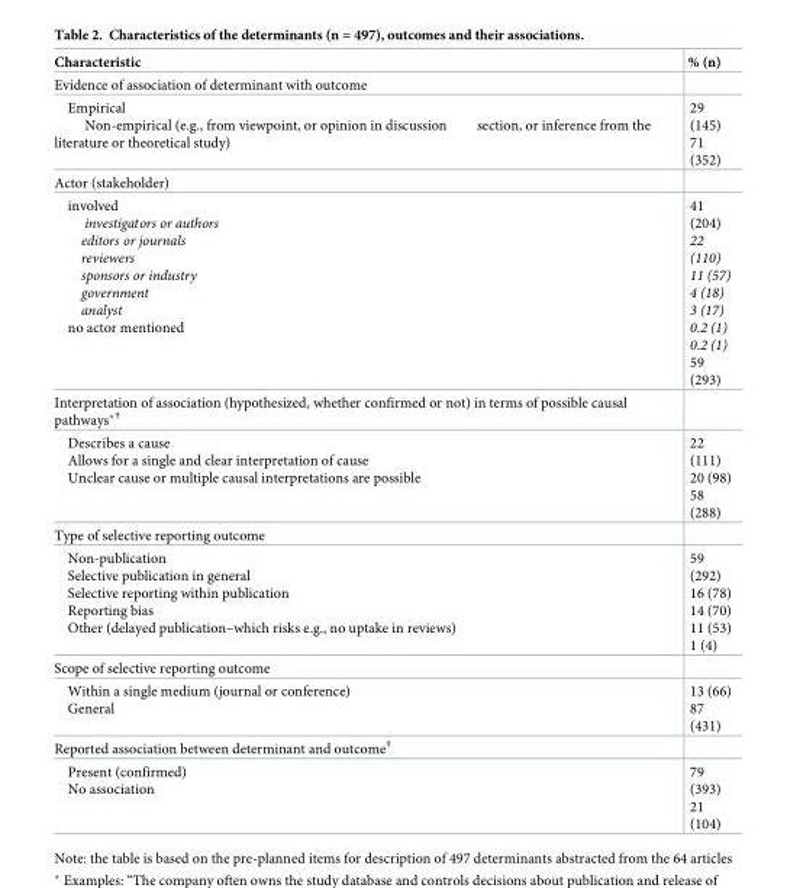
<table><thead><tr><td>Characteristic</td><td>% (n)</td></tr></thead><tbody><tr><td colspan="2">Evidence of association of determinant with outcome</td></tr><tr><td>Empirical Non-empirical (e.g., from viewpoint, or opinion in discussion section, or inference from the literature or theoretical study)</td><td>29 (145) 71 (352)</td></tr><tr><td colspan="2">Actor (stakeholder)</td></tr><tr><td>involved investigators or authors editors or journals reviewers sponsors or industry government analyst no actor mentioned</td><td>41 (204) 22 (110) 11 (57) 4 (18) 3 (17) 0.2 (1) 0.2 (1) 59 (293)</td></tr><tr><td colspan="2">Interpretation of association (hypothesized, whether confirmed or not) in terms of possible causal pathways*<sup>†</sup></td></tr><tr><td>Describes a cause Allows for a single and clear interpretation of cause Unclear cause or multiple causal interpretations are possible</td><td>22 (111) 20 (98) 58 (288)</td></tr><tr><td colspan="2">Type of selective reporting outcome</td></tr><tr><td>Non-publication Selective publication in general Selective reporting within publication Reporting bias Other (delayed publication–which risks e.g., no uptake in reviews)</td><td>59 (292) 16 (78) 14 (70) 11 (53) 1 (4)</td></tr><tr><td colspan="2">Scope of selective reporting outcome</td></tr><tr><td>Within a single medium (journal or conference) General</td><td>13 (66) 87 (431)</td></tr><tr><td colspan="2">Reported association between determinant and outcome<sup>†</sup></td></tr><tr><td>Present (confirmed) No association</td><td>79 (393) 21 (104)</td></tr></tbody></table>